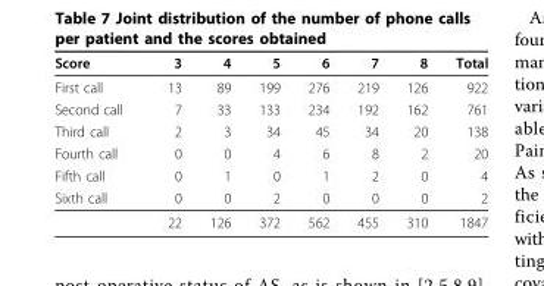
<table><thead><tr><td>Score</td><td>3</td><td>4</td><td>5</td><td>6</td><td>7</td><td>8</td><td>Total</td></tr></thead><tbody><tr><td>First call</td><td>13</td><td>89</td><td>199</td><td>276</td><td>219</td><td>126</td><td>922</td></tr><tr><td>Second call</td><td>7</td><td>33</td><td>133</td><td>234</td><td>192</td><td>162</td><td>761</td></tr><tr><td>Third call</td><td>2</td><td>3</td><td>34</td><td>45</td><td>34</td><td>20</td><td>138</td></tr><tr><td>Fourth call</td><td>0</td><td>0</td><td>4</td><td>6</td><td>8</td><td>2</td><td>20</td></tr><tr><td>Fifth call</td><td>0</td><td>1</td><td>0</td><td>1</td><td>2</td><td>0</td><td>4</td></tr><tr><td rowspan="2">Sixth call</td><td>0</td><td>0</td><td>2</td><td>0</td><td>0</td><td>0</td><td>2</td></tr><tr><td>22</td><td>126</td><td>372</td><td>562</td><td>455</td><td>310</td><td>1847</td></tr></tbody></table>